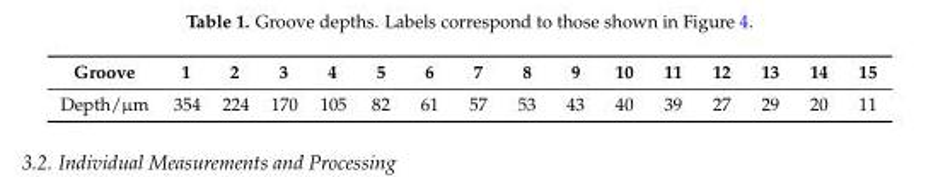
<table><thead><tr><td>Groove</td><td>1</td><td>2</td><td>3</td><td>4</td><td>5</td><td>6</td><td>7</td><td>8</td><td>9</td><td>10</td><td>11</td><td>12</td><td>13</td><td>14</td><td>15</td></tr></thead><tbody><tr><td>Depth/µm</td><td>354</td><td>224</td><td>170</td><td>105</td><td>82</td><td>61</td><td>57</td><td>53</td><td>43</td><td>40</td><td>39</td><td>27</td><td>29</td><td>20</td><td>11</td></tr></tbody></table>